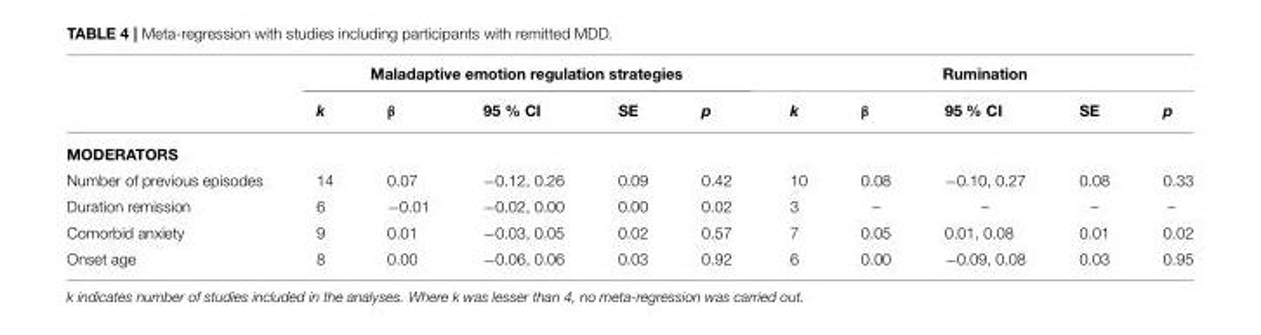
<table><thead><tr><td rowspan="2"></td><td colspan="5">Maladaptive emotion regulation strategies</td><td colspan="5">Rumination</td></tr><tr><td>k</td><td>β</td><td>95 % CI</td><td>SE</td><td>p</td><td>k</td><td>β</td><td>95 % CI</td><td>SE</td><td>p</td></tr></thead><tbody><tr><td colspan="11">MODERATORS</td></tr><tr><td>Number of previous episodes</td><td>14</td><td>0.07</td><td>−0.12, 0.26</td><td>0.09</td><td>0.42</td><td>10</td><td>0.08</td><td>−0.10, 0.27</td><td>0.08</td><td>0.33</td></tr><tr><td>Duration remission</td><td>6</td><td>−0.01</td><td>−0.02, 0.00</td><td>0.00</td><td>0.02</td><td>3</td><td>–</td><td>–</td><td>–</td><td>–</td></tr><tr><td>Comorbid anxiety</td><td>9</td><td>0.01</td><td>−0.03, 0.05</td><td>0.02</td><td>0.57</td><td>7</td><td>0.05</td><td>0.01, 0.08</td><td>0.01</td><td>0.02</td></tr><tr><td>Onset age</td><td>8</td><td>0.00</td><td>−0.06, 0.06</td><td>0.03</td><td>0.92</td><td>6</td><td>0.00</td><td>−0.09, 0.08</td><td>0.03</td><td>0.95</td></tr></tbody></table>